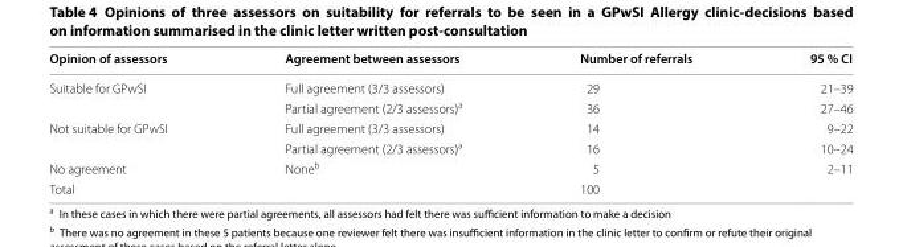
<table><thead><tr><td>Opinion of assessors</td><td>Agreement between assessors</td><td>Number of referrals</td><td>95 % CI</td></tr></thead><tbody><tr><td rowspan="2">Suitable for GPwSI</td><td>Full agreement (3/3 assessors)</td><td>29</td><td>21–39</td></tr><tr><td>Partial agreement (2/3 assessors)<sup>a</sup></td><td>36</td><td>27–46</td></tr><tr><td rowspan="2">Not suitable for GPwSI</td><td>Full agreement (3/3 assessors)</td><td>14</td><td>9–22</td></tr><tr><td>Partial agreement (2/3 assessors)<sup>a</sup></td><td>16</td><td>10–24</td></tr><tr><td>No agreement</td><td>None<sup>b</sup></td><td>5</td><td>2–11</td></tr><tr><td>Total</td><td></td><td>100</td><td></td></tr></tbody></table>